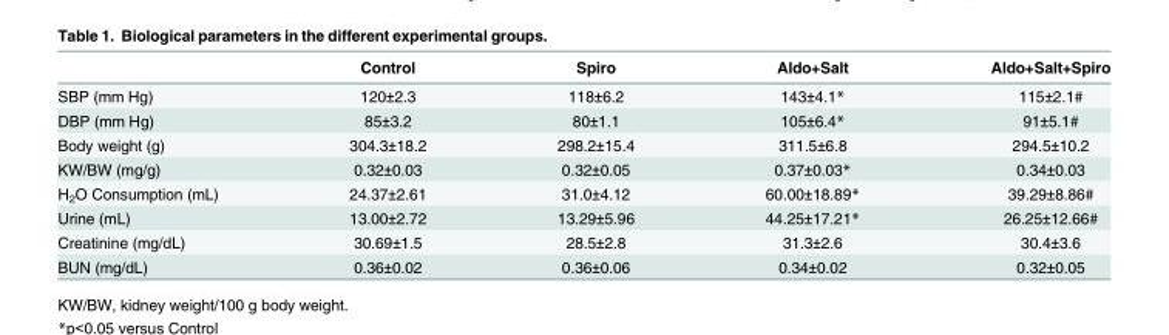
<table><thead><tr><td></td><td>Control</td><td>Spiro</td><td>Aldo+Salt</td><td>Aldo+Salt+Spiro</td></tr></thead><tbody><tr><td>SBP (mm Hg)</td><td>120±2.3</td><td>118±6.2</td><td>143±4.1*</td><td>115±2.1#</td></tr><tr><td>DBP (mm Hg)</td><td>85±3.2</td><td>80±1.1</td><td>105±6.4*</td><td>91±5.1#</td></tr><tr><td>Body weight (g)</td><td>304.3±18.2</td><td>298.2±15.4</td><td>311.5±6.8</td><td>294.5±10.2</td></tr><tr><td>KW/BW (mg/g)</td><td>0.32±0.03</td><td>0.32±0.05</td><td>0.37±0.03*</td><td>0.34±0.03</td></tr><tr><td>H<sub>2</sub>O Consumption (mL)</td><td>24.37±2.61</td><td>31.0±4.12</td><td>60.00±18.89*</td><td>39.29±8.86#</td></tr><tr><td>Urine (mL)</td><td>13.00±2.72</td><td>13.29±5.96</td><td>44.25±17.21*</td><td>26.25±12.66#</td></tr><tr><td>Creatinine (mg/dL)</td><td>30.69±1.5</td><td>28.5±2.8</td><td>31.3±2.6</td><td>30.4±3.6</td></tr><tr><td>BUN (mg/dL)</td><td>0.36±0.02</td><td>0.36±0.06</td><td>0.34±0.02</td><td>0.32±0.05</td></tr></tbody></table>